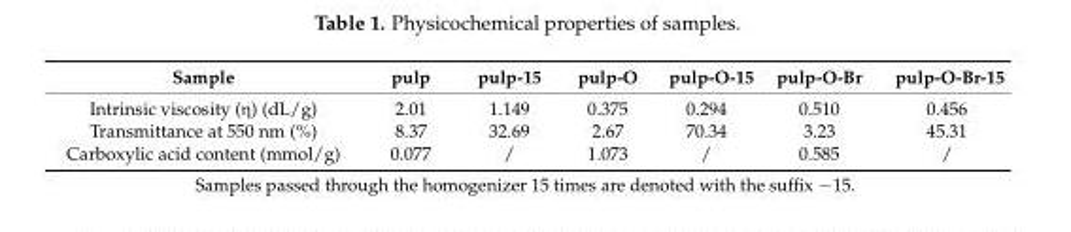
<table><thead><tr><td>Sample</td><td>pulp</td><td>pulp-15</td><td>pulp-O</td><td>pulp-O-15</td><td>pulp-O-Br</td><td>pulp-O-Br-15</td></tr></thead><tbody><tr><td>Intrinsic viscosity (η) (dL/g)</td><td>2.01</td><td>1.149</td><td>0.375</td><td>0.294</td><td>0.510</td><td>0.456</td></tr><tr><td>Transmittance at 550 nm (%)</td><td>8.37</td><td>32.69</td><td>2.67</td><td>70.34</td><td>3.23</td><td>45.31</td></tr><tr><td>Carboxylic acid content (mmol/g)</td><td>0.077</td><td>/</td><td>1.073</td><td>/</td><td>0.585</td><td>/</td></tr></tbody></table>